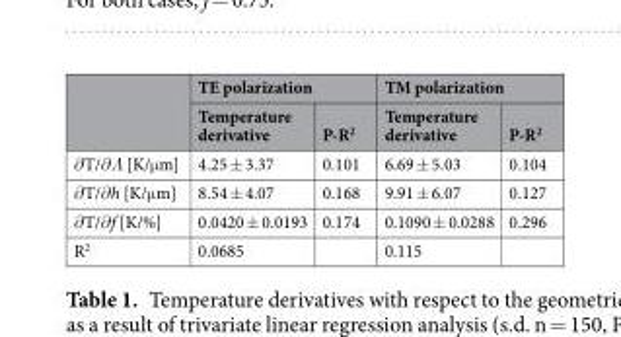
<table><thead><tr><td rowspan="2"></td><td colspan="2">TE polarization</td><td colspan="2">TM polarization</td></tr><tr><td>Temperature derivative</td><td>P-R<sup>2</sup></td><td>Temperature derivative</td><td>P-R<sup>2</sup></td></tr></thead><tbody><tr><td>∂T/∂Λ [K/μm]</td><td>4.25 ± 3.37</td><td>0.101</td><td>6.69 ± 5.03</td><td>0.104</td></tr><tr><td>∂T/∂h [K/μm]</td><td>8.54 ± 4.07</td><td>0.168</td><td>9.91 ± 6.07</td><td>0.127</td></tr><tr><td>∂T/∂f [K/%]</td><td>0.0420 ± 0.0193</td><td>0.174</td><td>0.1090 ± 0.0288</td><td>0.296</td></tr><tr><td>R<sup>2</sup></td><td>0.0685</td><td></td><td>0.115</td><td></td></tr></tbody></table>